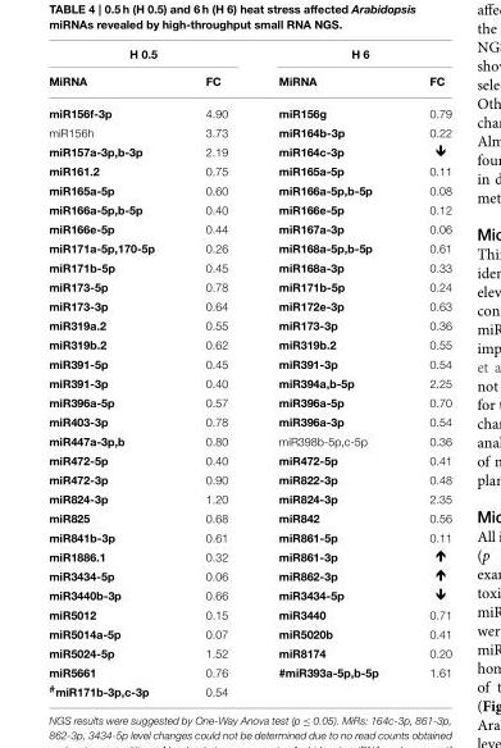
<table><thead><tr><td colspan="2">H 0.5</td><td colspan="2">H 6</td></tr><tr><td>MiRNA</td><td>FC</td><td>MiRNA</td><td>FC</td></tr></thead><tbody><tr><td>miR156f-3p</td><td>4.90</td><td>miR156g</td><td>0.79</td></tr><tr><td>miR156h</td><td>3.73</td><td>miR164b-3p</td><td>0.22</td></tr><tr><td>miR157a-3p,b-3p</td><td>2.19</td><td>miR164c-3p</td><td></td></tr><tr><td>miR161.2</td><td>0.75</td><td>miR165a-5p</td><td>0.11</td></tr><tr><td>miR165a-5p</td><td>0.60</td><td>miR166a-5p,b-5p</td><td>0.08</td></tr><tr><td>miR166a-5p,b-5p</td><td>0.40</td><td>miR166e-5p</td><td>0.12</td></tr><tr><td>miR166e-5p</td><td>0.44</td><td>miR167a-3p</td><td>0.06</td></tr><tr><td>miR171a-5p,170-5p</td><td>0.26</td><td>miR168a-5p,b-5p</td><td>0.61</td></tr><tr><td>miR171b-5p</td><td>0.45</td><td>miR168a-3p</td><td>0.33</td></tr><tr><td>miR173-5p</td><td>0.78</td><td>miR171b-5p</td><td>0.24</td></tr><tr><td>miR173-3p</td><td>0.64</td><td>miR172e-3p</td><td>0.63</td></tr><tr><td>miR319a.2</td><td>0.55</td><td>miR173-3p</td><td>0.36</td></tr><tr><td>miR319b.2</td><td>0.62</td><td>miR319b.2</td><td>0.55</td></tr><tr><td>miR391-5p</td><td>0.45</td><td>miR391-3p</td><td>0.54</td></tr><tr><td>miR391-3p</td><td>0.40</td><td>miR394a,b-5p</td><td>2.25</td></tr><tr><td>miR396a-5p</td><td>0.57</td><td>miR396a-5p</td><td>0.70</td></tr><tr><td>miR403-3p</td><td>0.78</td><td>miR396a-3p</td><td>0.54</td></tr><tr><td>miR447a-3p,b</td><td>0.80</td><td>miR398b-5p,c-5p</td><td>0.36</td></tr><tr><td>miR472-5p</td><td>0.40</td><td>miR472-5p</td><td>0.41</td></tr><tr><td>miR472-3p</td><td>0.90</td><td>miR822-3p</td><td>0.48</td></tr><tr><td>miR824-3p</td><td>1.20</td><td>miR824-3p</td><td>2.35</td></tr><tr><td>miR825</td><td>0.68</td><td>miR842</td><td>0.56</td></tr><tr><td>miR841b-3p</td><td>0.61</td><td>miR861-5p</td><td>0.11</td></tr><tr><td>miR1886.1</td><td>0.32</td><td>miR861-3p</td><td></td></tr><tr><td>miR3434-5p</td><td>0.06</td><td>miR862-3p</td><td></td></tr><tr><td>miR3440b-3p</td><td>0.66</td><td>miR3434-5p</td><td></td></tr><tr><td>miR5012</td><td>0.15</td><td>miR3440</td><td>0.71</td></tr><tr><td>miR5014a-5p</td><td>0.07</td><td>miR5020b</td><td>0.41</td></tr><tr><td>miR5024-5p</td><td>1.52</td><td>miR8174</td><td>0.20</td></tr><tr><td>miR5661</td><td>0.76</td><td>#miR393a-5p,b-5p</td><td>1.61</td></tr><tr><td><sup>#</sup>miR171b-3p,c-3p</td><td>0.54</td><td></td><td></td></tr></tbody></table>